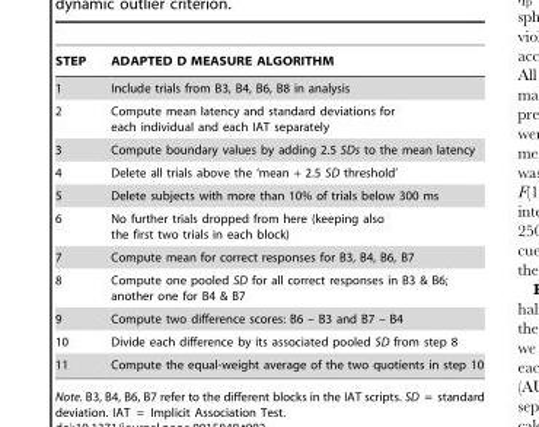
<table><thead><tr><td>STEP</td><td>ADAPTED D MEASURE ALGORITHM</td></tr></thead><tbody><tr><td>1</td><td>Include trials from B3, B4, B6, B8 in analysis</td></tr><tr><td>2</td><td>Compute mean latency and standard deviations for each individual and each IAT separately</td></tr><tr><td>3</td><td>Compute boundary values by adding 2.5 SDs to the mean latency</td></tr><tr><td>4</td><td>Delete all trials above the ‘mean + 2.5 SD threshold’</td></tr><tr><td>5</td><td>Delete subjects with more than 10% of trials below 300 ms</td></tr><tr><td>6</td><td>No further trials dropped from here (keeping also the first two trials in each block)</td></tr><tr><td>7</td><td>Compute mean for correct responses for B3, B4, B6, B7</td></tr><tr><td>8</td><td>Compute one pooled SD for all correct responses in B3 &amp; B6; another one for B4 &amp; B7</td></tr><tr><td>9</td><td>Compute two difference scores: B6 – B3 and B7 – B4</td></tr><tr><td>10</td><td>Divide each difference by its associated pooled SD from step 8</td></tr><tr><td>11</td><td>Compute the equal-weight average of the two quotients in step 10</td></tr></tbody></table>